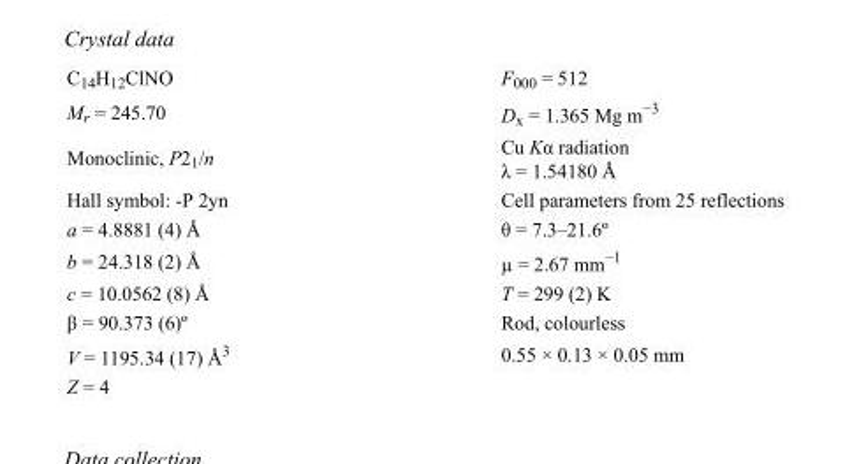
<table><tbody><tr><td>C<sub>14</sub>H<sub>12</sub>ClNO</td><td>F<sub>000</sub> = 512</td></tr><tr><td>M<sub>r</sub> = 245.70</td><td>D<sub>x</sub> = 1.365 Mg m<sup>−3</sup></td></tr><tr><td>Monoclinic, P2<sub>1</sub>/n</td><td>Cu Kα radiation λ = 1.54180 Å</td></tr><tr><td>Hall symbol: -P 2yn</td><td>Cell parameters from 25 reflections</td></tr><tr><td>a = 4.8881 (4) Å</td><td>θ = 7.3–21.6º</td></tr><tr><td>b = 24.318 (2) Å</td><td>µ = 2.67 mm<sup>−1</sup></td></tr><tr><td>c = 10.0562 (8) Å</td><td>T = 299 (2) K</td></tr><tr><td>β = 90.373 (6)º</td><td>Rod, colourless</td></tr><tr><td>V = 1195.34 (17) Å<sup>3</sup></td><td>0.55 × 0.13 × 0.05 mm</td></tr><tr><td>Z = 4</td><td></td></tr></tbody></table>